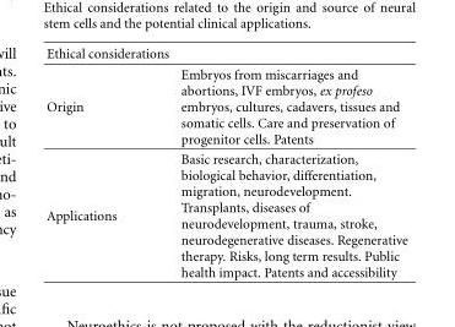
<table><thead><tr><td>Ethical considerations</td><td></td></tr></thead><tbody><tr><td>Origin</td><td>Embryos from miscarriages and abortions, IVF embryos, ex profeso embryos, cultures, cadavers, tissues and somatic cells. Care and preservation of progenitor cells. Patents</td></tr><tr><td>Applications</td><td>Basic research, characterization, biological behavior, differentiation, migration, neurodevelopment. Transplants, diseases of neurodevelopment, trauma, stroke, neurodegenerative diseases. Regenerative therapy. Risks, long term results. Public health impact. Patents and accessibility</td></tr></tbody></table>